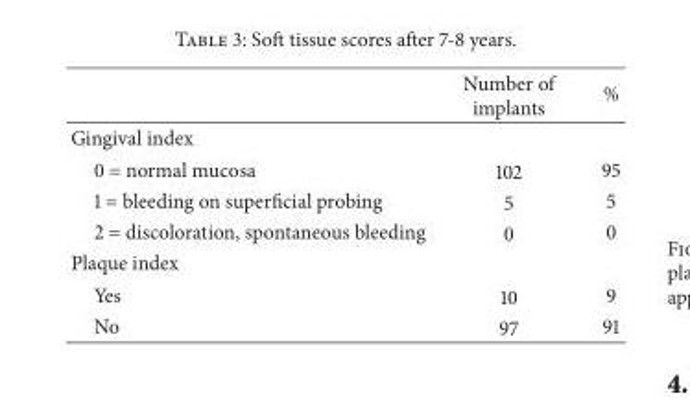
<table><thead><tr><td></td><td>Number of implants</td><td>%</td></tr></thead><tbody><tr><td colspan="3">Gingival index</td></tr><tr><td>0 = normal mucosa</td><td>102</td><td>95</td></tr><tr><td>1 = bleeding on superficial probing</td><td>5</td><td>5</td></tr><tr><td>2 = discoloration, spontaneous bleeding</td><td>0</td><td>0</td></tr><tr><td colspan="3">Plaque index</td></tr><tr><td>Yes</td><td>10</td><td>9</td></tr><tr><td>No</td><td>97</td><td>91</td></tr></tbody></table>